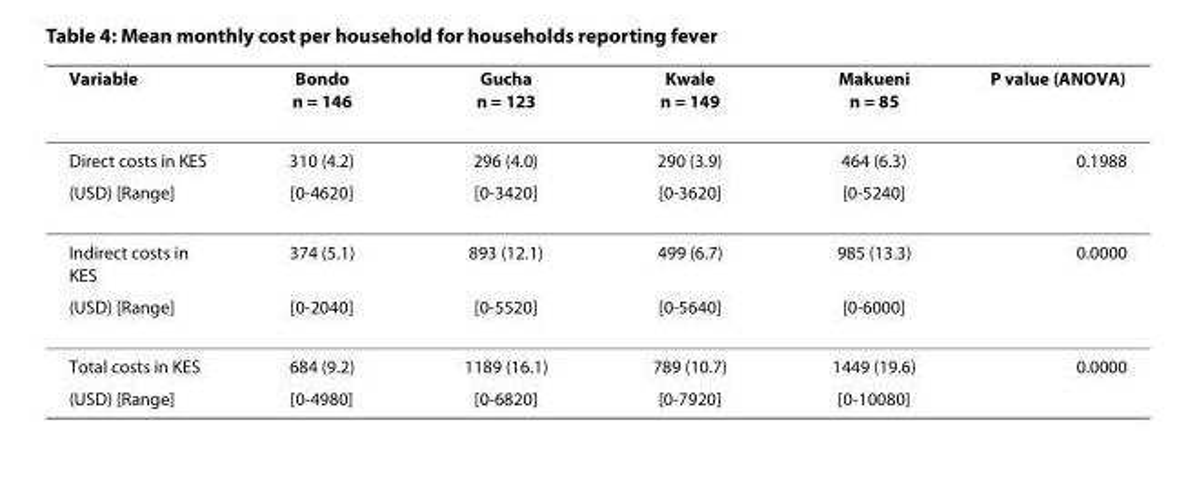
<table><thead><tr><td>Variable</td><td>Bondo n = 146</td><td>Gucha n = 123</td><td>Kwale n = 149</td><td>Makueni n = 85</td><td>P value (ANOVA)</td></tr></thead><tbody><tr><td>Direct costs in KES</td><td>310 (4.2)</td><td>296 (4.0)</td><td>290 (3.9)</td><td>464 (6.3)</td><td>0.1988</td></tr><tr><td>(USD) [Range]</td><td>[0-4620]</td><td>[0-3420]</td><td>[0-3620]</td><td>[0-5240]</td><td></td></tr><tr><td>Indirect costs in KES</td><td>374 (5.1)</td><td>893 (12.1)</td><td>499 (6.7)</td><td>985 (13.3)</td><td>0.0000</td></tr><tr><td>(USD) [Range]</td><td>[0-2040]</td><td>[0-5520]</td><td>[0-5640]</td><td>[0-6000]</td><td></td></tr><tr><td>Total costs in KES</td><td>684 (9.2)</td><td>1189 (16.1)</td><td>789 (10.7)</td><td>1449 (19.6)</td><td>0.0000</td></tr><tr><td>(USD) [Range]</td><td>[0-4980]</td><td>[0-6820]</td><td>[0-7920]</td><td>[0-10080]</td><td></td></tr></tbody></table>